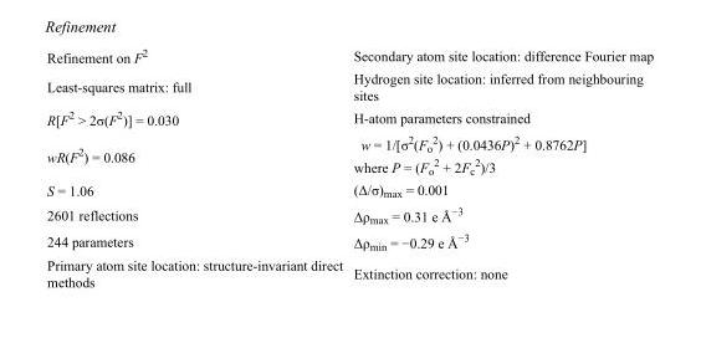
<table><tbody><tr><td>Refinement on F<sup>2</sup></td><td>Secondary atom site location: difference Fourier map</td></tr><tr><td>Least-squares matrix: full</td><td>Hydrogen site location: inferred from neighbouring sites</td></tr><tr><td>R[F<sup>2</sup> &gt; 2σ(F<sup>2</sup>)] = 0.030</td><td>H-atom parameters constrained</td></tr><tr><td>wR(F<sup>2</sup>) = 0.086</td><td>w = 1/[σ<sup>2</sup>(F<sub>o</sub> <sup>2</sup>) + (0.0436P)<sup>2</sup> + 0.8762P] where P = (F<sub>o</sub> <sup>2</sup> + 2F<sub>c</sub> <sup>2</sup>)/3</td></tr><tr><td>S = 1.06</td><td>(Δ/σ)<sub>max</sub> = 0.001</td></tr><tr><td>2601 reflections</td><td>Δρ<sub>max</sub> = 0.31 e Å<sup>−3</sup></td></tr><tr><td>244 parameters</td><td>Δρ<sub>min</sub> = −0.29 e Å<sup>−3</sup></td></tr><tr><td>Primary atom site location: structure-invariant direct methods</td><td>Extinction correction: none</td></tr></tbody></table>